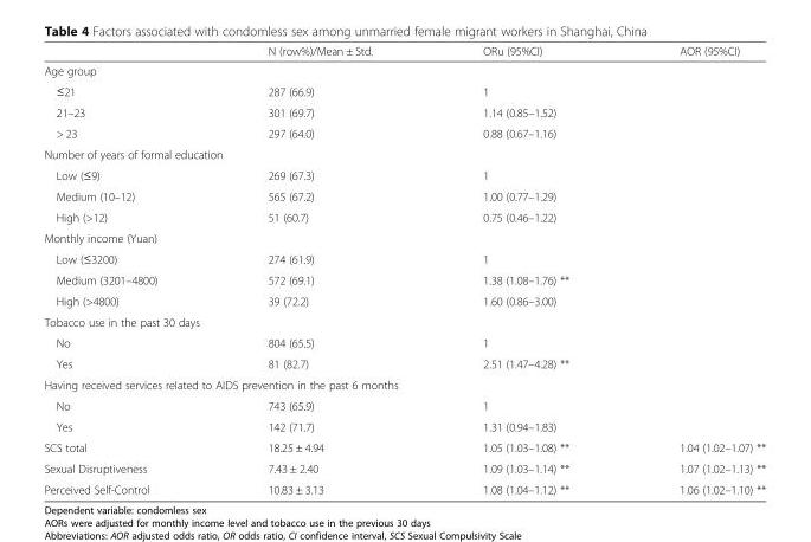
<table><thead><tr><td></td><td>N (row%)/Mean ± Std.</td><td>ORu (95%CI)</td><td>AOR (95%CI)</td></tr></thead><tbody><tr><td colspan="4">Age group</td></tr><tr><td>≤21</td><td>287 (66.9)</td><td>1</td><td></td></tr><tr><td>21–23</td><td>301 (69.7)</td><td>1.14 (0.85–1.52)</td><td></td></tr><tr><td>&gt; 23</td><td>297 (64.0)</td><td>0.88 (0.67–1.16)</td><td></td></tr><tr><td colspan="4">Number of years of formal education</td></tr><tr><td>Low (≤9)</td><td>269 (67.3)</td><td>1</td><td></td></tr><tr><td>Medium (10–12)</td><td>565 (67.2)</td><td>1.00 (0.77–1.29)</td><td></td></tr><tr><td>High (&gt;12)</td><td>51 (60.7)</td><td>0.75 (0.46–1.22)</td><td></td></tr><tr><td colspan="4">Monthly income (Yuan)</td></tr><tr><td>Low (≤3200)</td><td>274 (61.9)</td><td>1</td><td></td></tr><tr><td>Medium (3201–4800)</td><td>572 (69.1)</td><td>1.38 (1.08–1.76) **</td><td></td></tr><tr><td>High (&gt;4800)</td><td>39 (72.2)</td><td>1.60 (0.86–3.00)</td><td></td></tr><tr><td colspan="4">Tobacco use in the past 30 days</td></tr><tr><td>No</td><td>804 (65.5)</td><td>1</td><td></td></tr><tr><td>Yes</td><td>81 (82.7)</td><td>2.51 (1.47–4.28) **</td><td></td></tr><tr><td colspan="4">Having received services related to AIDS prevention in the past 6 months</td></tr><tr><td>No</td><td>743 (65.9)</td><td>1</td><td></td></tr><tr><td>Yes</td><td>142 (71.7)</td><td>1.31 (0.94–1.83)</td><td></td></tr><tr><td>SCS total</td><td>18.25 ± 4.94</td><td>1.05 (1.03–1.08) **</td><td>1.04 (1.02–1.07) **</td></tr><tr><td>Sexual Disruptiveness</td><td>7.43 ± 2.40</td><td>1.09 (1.03–1.14) **</td><td>1.07 (1.02–1.13) **</td></tr><tr><td>Perceived Self-Control</td><td>10.83 ± 3.13</td><td>1.08 (1.04–1.12) **</td><td>1.06 (1.02–1.10) **</td></tr></tbody></table>